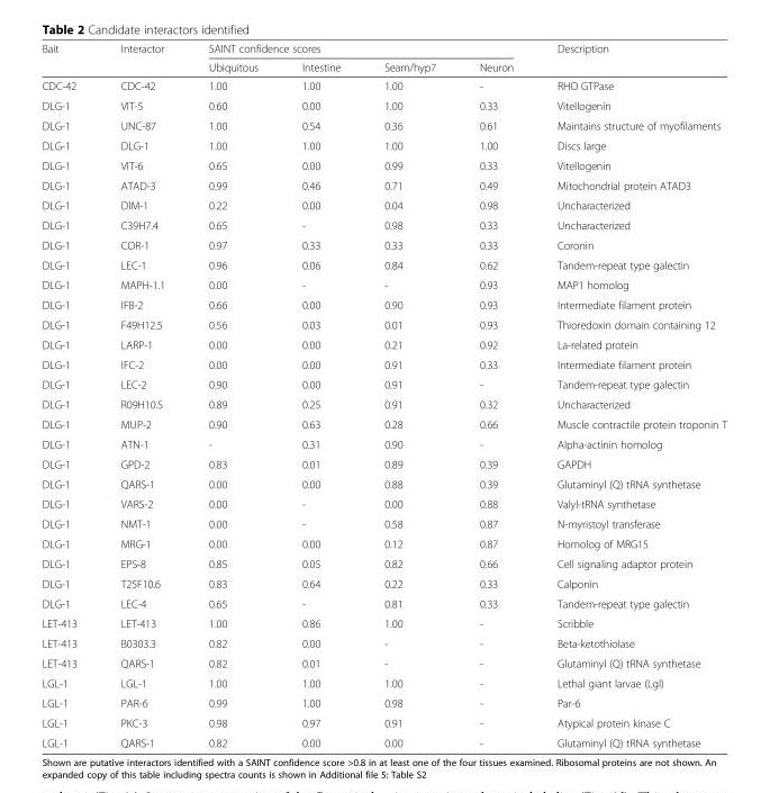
<table><thead><tr><td rowspan="2">Bait</td><td rowspan="2">Interactor</td><td colspan="4">SAINT confidence scores</td><td rowspan="2">Description</td></tr><tr><td>Ubiquitous</td><td>Intestine</td><td>Seam/hyp7</td><td>Neuron</td></tr></thead><tbody><tr><td>CDC-42</td><td>CDC-42</td><td>1.00</td><td>1.00</td><td>1.00</td><td>-</td><td>RHO GTPase</td></tr><tr><td>DLG-1</td><td>VIT-5</td><td>0.60</td><td>0.00</td><td>1.00</td><td>0.33</td><td>Vitellogenin</td></tr><tr><td>DLG-1</td><td>UNC-87</td><td>1.00</td><td>0.54</td><td>0.36</td><td>0.61</td><td>Maintains structure of myofilaments</td></tr><tr><td>DLG-1</td><td>DLG-1</td><td>1.00</td><td>1.00</td><td>1.00</td><td>1.00</td><td>Discs large</td></tr><tr><td>DLG-1</td><td>VIT-6</td><td>0.65</td><td>0.00</td><td>0.99</td><td>0.33</td><td>Vitellogenin</td></tr><tr><td>DLG-1</td><td>ATAD-3</td><td>0.99</td><td>0.46</td><td>0.71</td><td>0.49</td><td>Mitochondrial protein ATAD3</td></tr><tr><td>DLG-1</td><td>DIM-1</td><td>0.22</td><td>0.00</td><td>0.04</td><td>0.98</td><td>Uncharacterized</td></tr><tr><td>DLG-1</td><td>C39H7.4</td><td>0.65</td><td>-</td><td>0.98</td><td>0.33</td><td>Uncharacterized</td></tr><tr><td>DLG-1</td><td>COR-1</td><td>0.97</td><td>0.33</td><td>0.33</td><td>0.33</td><td>Coronin</td></tr><tr><td>DLG-1</td><td>LEC-1</td><td>0.96</td><td>0.06</td><td>0.84</td><td>0.62</td><td>Tandem-repeat type galectin</td></tr><tr><td>DLG-1</td><td>MAPH-1.1</td><td>0.00</td><td>-</td><td>-</td><td>0.93</td><td>MAP1 homolog</td></tr><tr><td>DLG-1</td><td>IFB-2</td><td>0.66</td><td>0.00</td><td>0.90</td><td>0.93</td><td>Intermediate filament protein</td></tr><tr><td>DLG-1</td><td>F49H12.5</td><td>0.56</td><td>0.03</td><td>0.01</td><td>0.93</td><td>Thioredoxin domain containing 12</td></tr><tr><td>DLG-1</td><td>LARP-1</td><td>0.00</td><td>0.00</td><td>0.21</td><td>0.92</td><td>La-related protein</td></tr><tr><td>DLG-1</td><td>IFC-2</td><td>0.00</td><td>0.00</td><td>0.91</td><td>0.33</td><td>Intermediate filament protein</td></tr><tr><td>DLG-1</td><td>LEC-2</td><td>0.90</td><td>0.00</td><td>0.91</td><td>-</td><td>Tandem-repeat type galectin</td></tr><tr><td>DLG-1</td><td>R09H10.5</td><td>0.89</td><td>0.25</td><td>0.91</td><td>0.32</td><td>Uncharacterized</td></tr><tr><td>DLG-1</td><td>MUP-2</td><td>0.90</td><td>0.63</td><td>0.28</td><td>0.66</td><td>Muscle contractile protein troponin T</td></tr><tr><td>DLG-1</td><td>ATN-1</td><td>-</td><td>0.31</td><td>0.90</td><td>-</td><td>Alpha-actinin homolog</td></tr><tr><td>DLG-1</td><td>GPD-2</td><td>0.83</td><td>0.01</td><td>0.89</td><td>0.39</td><td>GAPDH</td></tr><tr><td>DLG-1</td><td>QARS-1</td><td>0.00</td><td>0.00</td><td>0.88</td><td>0.39</td><td>Glutaminyl (Q) tRNA synthetase</td></tr><tr><td>DLG-1</td><td>VARS-2</td><td>0.00</td><td>-</td><td>0.00</td><td>0.88</td><td>Valyl-tRNA synthetase</td></tr><tr><td>DLG-1</td><td>NMT-1</td><td>0.00</td><td>-</td><td>0.58</td><td>0.87</td><td>N-myristoyl transferase</td></tr><tr><td>DLG-1</td><td>MRG-1</td><td>0.00</td><td>0.00</td><td>0.12</td><td>0.87</td><td>Homolog of MRG15</td></tr><tr><td>DLG-1</td><td>EPS-8</td><td>0.85</td><td>0.05</td><td>0.82</td><td>0.66</td><td>Cell signaling adaptor protein</td></tr><tr><td>DLG-1</td><td>T25F10.6</td><td>0.83</td><td>0.64</td><td>0.22</td><td>0.33</td><td>Calponin</td></tr><tr><td>DLG-1</td><td>LEC-4</td><td>0.65</td><td>-</td><td>0.81</td><td>0.33</td><td>Tandem-repeat type galectin</td></tr><tr><td>LET-413</td><td>LET-413</td><td>1.00</td><td>0.86</td><td>1.00</td><td>-</td><td>Scribble</td></tr><tr><td>LET-413</td><td>B0303.3</td><td>0.82</td><td>0.00</td><td>-</td><td>-</td><td>Beta-ketothiolase</td></tr><tr><td>LET-413</td><td>QARS-1</td><td>0.82</td><td>0.01</td><td>-</td><td>-</td><td>Glutaminyl (Q) tRNA synthetase</td></tr><tr><td>LGL-1</td><td>LGL-1</td><td>1.00</td><td>1.00</td><td>1.00</td><td>-</td><td>Lethal giant larvae (Lgl)</td></tr><tr><td>LGL-1</td><td>PAR-6</td><td>0.99</td><td>1.00</td><td>0.98</td><td>-</td><td>Par-6</td></tr><tr><td>LGL-1</td><td>PKC-3</td><td>0.98</td><td>0.97</td><td>0.91</td><td>-</td><td>Atypical protein kinase C</td></tr><tr><td>LGL-1</td><td>QARS-1</td><td>0.82</td><td>0.00</td><td>0.00</td><td>-</td><td>Glutaminyl (Q) tRNA synthetase</td></tr></tbody></table>